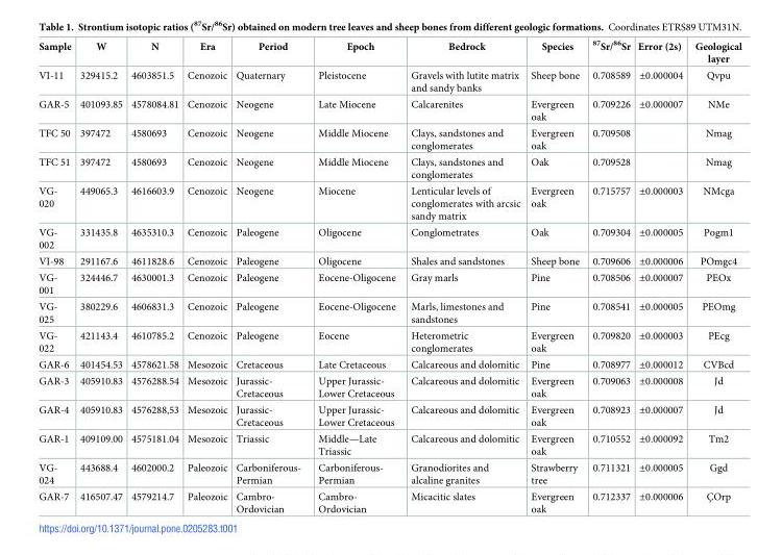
<table><thead><tr><td>Sample</td><td>W</td><td>N</td><td>Era</td><td>Period</td><td>Epoch</td><td>Bedrock</td><td>Species</td><td><sup>87</sup>Sr/<sup>86</sup>Sr</td><td>Error (2s)</td><td>Geological layer</td></tr></thead><tbody><tr><td>VI-11</td><td>329415.2</td><td>4603851.5</td><td>Cenozoic</td><td>Quaternary</td><td>Pleistocene</td><td>Gravels with lutite matrix and sandy banks</td><td>Sheep bone</td><td>0.708589</td><td>±0.000004</td><td>Qvpu</td></tr><tr><td>GAR-5</td><td>401093.85</td><td>4578084.81</td><td>Cenozoic</td><td>Neogene</td><td>Late Miocene</td><td>Calcarenites</td><td>Evergreen oak</td><td>0.709226</td><td>±0.000007</td><td>NMe</td></tr><tr><td>TFC 50</td><td>397472</td><td>4580693</td><td>Cenozoic</td><td>Neogene</td><td>Middle Miocene</td><td>Clays, sandstones and conglomerates</td><td>Evergreen oak</td><td>0.709508</td><td></td><td>Nmag</td></tr><tr><td>TFC 51</td><td>397472</td><td>4580693</td><td>Cenozoic</td><td>Neogene</td><td>Middle Miocene</td><td>Clays, sandstones and conglomerates</td><td>Oak</td><td>0.709528</td><td></td><td>Nmag</td></tr><tr><td>VG- 020</td><td>449065.3</td><td>4616603.9</td><td>Cenozoic</td><td>Neogene</td><td>Miocene</td><td>Lenticular levels of conglomerates with arcsic sandy matrix</td><td>Evergreen oak</td><td>0.715757</td><td>±0.000003</td><td>NMcga</td></tr><tr><td>VG- 002</td><td>331435.8</td><td>4635310.3</td><td>Cenozoic</td><td>Paleogene</td><td>Oligocene</td><td>Conglometrates</td><td>Oak</td><td>0.709304</td><td>±0.000005</td><td>Pogm1</td></tr><tr><td>VI-98</td><td>291167.6</td><td>4611828.6</td><td>Cenozoic</td><td>Paleogene</td><td>Oligocene</td><td>Shales and sandstones</td><td>Sheep bone</td><td>0.709606</td><td>±0.000006</td><td>POmgc4</td></tr><tr><td>VG- 001</td><td>324446.7</td><td>4630001.3</td><td>Cenozoic</td><td>Paleogene</td><td>Eocene-Oligocene</td><td>Gray marls</td><td>Pine</td><td>0.708506</td><td>±0.000007</td><td>PEOx</td></tr><tr><td>VG- 025</td><td>380229.6</td><td>4606831.3</td><td>Cenozoic</td><td>Paleogene</td><td>Eocene-Oligocene</td><td>Marls, limestones and sandstones</td><td>Pine</td><td>0.708541</td><td>±0.000005</td><td>PEOmg</td></tr><tr><td>VG- 022</td><td>421143.4</td><td>4610785.2</td><td>Cenozoic</td><td>Paleogene</td><td>Eocene</td><td>Heterometric conglomerates</td><td>Evergreen oak</td><td>0.709820</td><td>±0.000003</td><td>PEcg</td></tr><tr><td>GAR-6</td><td>401454.53</td><td>4578621.58</td><td>Mesozoic</td><td>Cretaceous</td><td>Late Cretaceous</td><td>Calcareous and dolomitic</td><td>Pine</td><td>0.708977</td><td>±0.000012</td><td>CVBcd</td></tr><tr><td>GAR-3</td><td>405910.83</td><td>4576288.54</td><td>Mesozoic</td><td>Jurassic- Cretaceous</td><td>Upper Jurassic- Lower Cretaceous</td><td>Calcareous and dolomitic</td><td>Evergreen oak</td><td>0.709063</td><td>±0.000008</td><td>Jd</td></tr><tr><td>GAR-4</td><td>405910.83</td><td>4576288,53</td><td>Mesozoic</td><td>Jurassic- Cretaceous</td><td>Upper Jurassic- Lower Cretaceous</td><td>Calcareous and dolomitic</td><td>Evergreen oak</td><td>0.708923</td><td>±0.000007</td><td>Jd</td></tr><tr><td>GAR-1</td><td>409109.00</td><td>4575181.04</td><td>Mesozoic</td><td>Triassic</td><td>Middle—Late Triassic</td><td>Calcareous and dolomitic</td><td>Evergreen oak</td><td>0.710552</td><td>±0.000092</td><td>Tm2</td></tr><tr><td>VG- 024</td><td>443688.4</td><td>4602000.2</td><td>Paleozoic</td><td>Carboniferous- Permian</td><td>Carboniferous- Permian</td><td>Granodiorites and alcaline granites</td><td>Strawberry tree</td><td>0.711321</td><td>±0.000005</td><td>Ggd</td></tr><tr><td>GAR-7</td><td>416507.47</td><td>4579214.7</td><td>Paleozoic</td><td>Cambro- Ordovician</td><td>Cambro- Ordovician</td><td>Micacitic slates</td><td>Evergreen oak</td><td>0.712337</td><td>±0.000006</td><td>C¸Orp</td></tr></tbody></table>